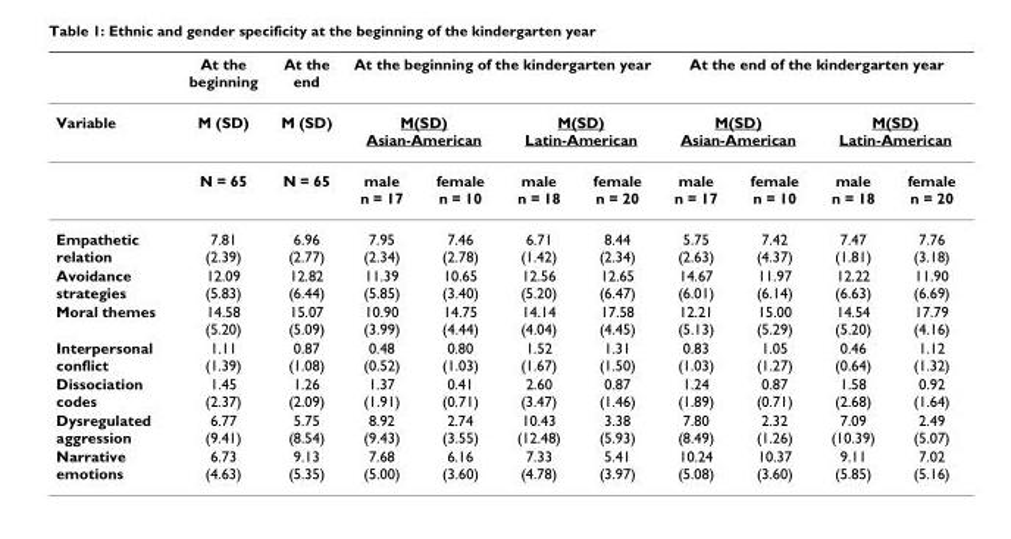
<table><thead><tr><td rowspan="3">Variable</td><td rowspan="3">At the beginning M (SD) N = 65</td><td rowspan="3">At the end M (SD) N = 65</td><td colspan="4">At the beginning of the kindergarten year</td><td colspan="4">At the end of the kindergarten year</td></tr><tr><td colspan="2">M(SD) Asian-American</td><td colspan="2">M(SD) Latin-American</td><td colspan="2">M(SD) Asian-American</td><td colspan="2">M(SD) Latin-American</td></tr><tr><td>male n = 17</td><td>female n = 10</td><td>male n = 18</td><td>female n = 20</td><td>male n = 17</td><td>female n = 10</td><td>male n = 18</td><td>female n = 20</td></tr></thead><tbody><tr><td>Empathetic relation</td><td>7.81 (2.39)</td><td>6.96 (2.77)</td><td>7.95 (2.34)</td><td>7.46 (2.78)</td><td>6.71 (1.42)</td><td>8.44 (2.34)</td><td>5.75 (2.63)</td><td>7.42 (4.37)</td><td>7.47 (1.81)</td><td>7.76 (3.18)</td></tr><tr><td>Avoidance strategies</td><td>12.09 (5.83)</td><td>12.82 (6.44)</td><td>11.39 (5.85)</td><td>10.65 (3.40)</td><td>12.56 (5.20)</td><td>12.65 (6.47)</td><td>14.67 (6.01)</td><td>11.97 (6.14)</td><td>12.22 (6.63)</td><td>11.90 (6.69)</td></tr><tr><td>Moral themes</td><td>14.58 (5.20)</td><td>15.07 (5.09)</td><td>10.90 (3.99)</td><td>14.75 (4.44)</td><td>14.14 (4.04)</td><td>17.58 (4.45)</td><td>12.21 (5.13)</td><td>15.00 (5.29)</td><td>14.54 (5.20)</td><td>17.79 (4.16)</td></tr><tr><td>Interpersonal conflict</td><td>1.11 (1.39)</td><td>0.87 (1.08)</td><td>0.48 (0.52)</td><td>0.80 (1.03)</td><td>1.52 (1.67)</td><td>1.31 (1.50)</td><td>0.83 (1.03)</td><td>1.05 (1.27)</td><td>0.46 (0.64)</td><td>1.12 (1.32)</td></tr><tr><td>Dissociation codes</td><td>1.45 (2.37)</td><td>1.26 (2.09)</td><td>1.37 (1.91)</td><td>0.41 (0.71)</td><td>2.60 (3.47)</td><td>0.87 (1.46)</td><td>1.24 (1.89)</td><td>0.87 (0.71)</td><td>1.58 (2.68)</td><td>0.92 (1.64)</td></tr><tr><td>Dysregulated aggression</td><td>6.77 (9.41)</td><td>5.75 (8.54)</td><td>8.92 (9.43)</td><td>2.74 (3.55)</td><td>10.43 (12.48)</td><td>3.38 (5.93)</td><td>7.80 (8.49)</td><td>2.32 (1.26)</td><td>7.09 (10.39)</td><td>2.49 (5.07)</td></tr><tr><td>Narrative emotions</td><td>6.73 (4.63)</td><td>9.13 (5.35)</td><td>7.68 (5.00)</td><td>6.16 (3.60)</td><td>7.33 (4.78)</td><td>5.41 (3.97)</td><td>10.24 (5.08)</td><td>10.37 (3.60)</td><td>9.11 (5.85)</td><td>7.02 (5.16)</td></tr></tbody></table>